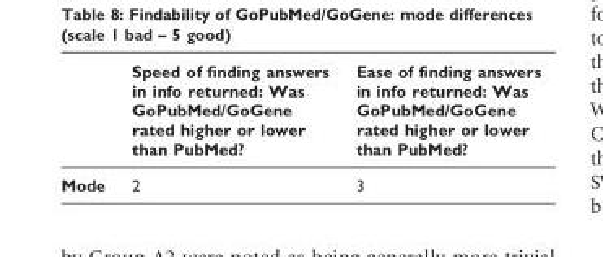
<table><thead><tr><td></td><td>Speed of finding answers in info returned: Was GoPubMed/GoGene rated higher or lower than PubMed?</td><td>Ease of finding answers in info returned: Was GoPubMed/GoGene rated higher or lower than PubMed?</td></tr></thead><tbody><tr><td>Mode</td><td>2</td><td>3</td></tr></tbody></table>